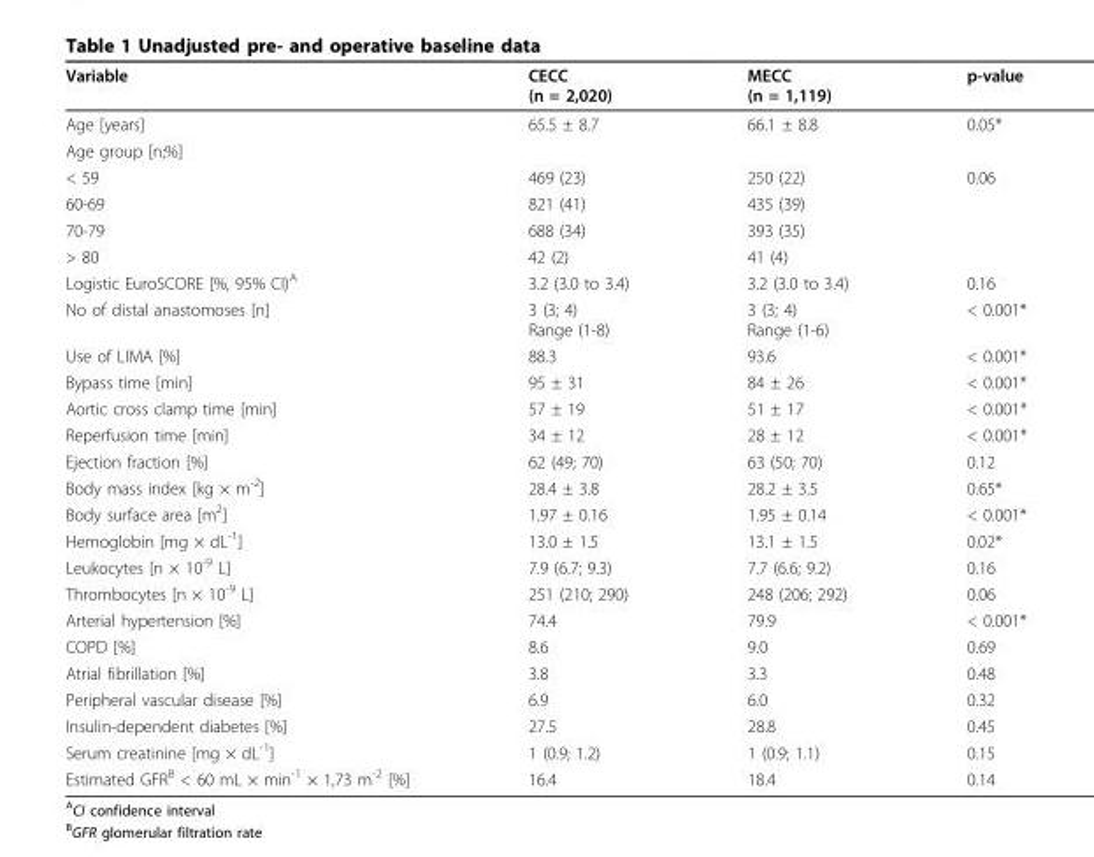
<table><thead><tr><td>Variable</td><td>CECC (n = 2,020)</td><td>MECC (n = 1,119)</td><td>p-value</td></tr></thead><tbody><tr><td>Age [years]</td><td>65.5 ± 8.7</td><td>66.1 ± 8.8</td><td>0.05*</td></tr><tr><td colspan="4">Age group [n;%]</td></tr><tr><td>&lt; 59</td><td>469 (23)</td><td>250 (22)</td><td>0.06</td></tr><tr><td>60-69</td><td>821 (41)</td><td>435 (39)</td><td></td></tr><tr><td>70-79</td><td>688 (34)</td><td>393 (35)</td><td></td></tr><tr><td>&gt; 80</td><td>42 (2)</td><td>41 (4)</td><td></td></tr><tr><td>Logistic EuroSCORE [%, 95% CI)<sup>A</sup></td><td>3.2 (3.0 to 3.4)</td><td>3.2 (3.0 to 3.4)</td><td>0.16</td></tr><tr><td>No of distal anastomoses [n]</td><td>3 (3; 4) Range (1-8)</td><td>3 (3; 4) Range (1-6)</td><td>&lt; 0.001*</td></tr><tr><td>Use of LIMA [%]</td><td>88.3</td><td>93.6</td><td>&lt; 0.001*</td></tr><tr><td>Bypass time [min]</td><td>95 ± 31</td><td>84 ± 26</td><td>&lt; 0.001*</td></tr><tr><td>Aortic cross clamp time [min]</td><td>57 ± 19</td><td>51 ± 17</td><td>&lt; 0.001*</td></tr><tr><td>Reperfusion time [min]</td><td>34 ± 12</td><td>28 ± 12</td><td>&lt; 0.001*</td></tr><tr><td>Ejection fraction [%]</td><td>62 (49; 70)</td><td>63 (50; 70)</td><td>0.12</td></tr><tr><td>Body mass index [kg × m<sup>-2</sup>]</td><td>28.4 ± 3.8</td><td>28.2 ± 3.5</td><td>0.65*</td></tr><tr><td>Body surface area [m<sup>2</sup>]</td><td>1.97 ± 0.16</td><td>1.95 ± 0.14</td><td>&lt; 0.001*</td></tr><tr><td>Hemoglobin [mg × dL<sup>-1</sup>]</td><td>13.0 ± 1.5</td><td>13.1 ± 1.5</td><td>0.02*</td></tr><tr><td>Leukocytes [n × 10<sup>-9</sup> L]</td><td>7.9 (6.7; 9.3)</td><td>7.7 (6.6; 9.2)</td><td>0.16</td></tr><tr><td>Thrombocytes [n × 10<sup>-9</sup> L]</td><td>251 (210; 290)</td><td>248 (206; 292)</td><td>0.06</td></tr><tr><td>Arterial hypertension [%]</td><td>74.4</td><td>79.9</td><td>&lt; 0.001*</td></tr><tr><td>COPD [%]</td><td>8.6</td><td>9.0</td><td>0.69</td></tr><tr><td>Atrial fibrillation [%]</td><td>3.8</td><td>3.3</td><td>0.48</td></tr><tr><td>Peripheral vascular disease [%]</td><td>6.9</td><td>6.0</td><td>0.32</td></tr><tr><td>Insulin-dependent diabetes [%]</td><td>27.5</td><td>28.8</td><td>0.45</td></tr><tr><td>Serum creatinine [mg × dL<sup>-1</sup>]</td><td>1 (0.9; 1.2)</td><td>1 (0.9; 1.1)</td><td>0.15</td></tr><tr><td>Estimated GFR<sup>B</sup> &lt; 60 mL × min<sup>-1</sup> × 1,73 m<sup>-2</sup> [%]</td><td>16.4</td><td>18.4</td><td>0.14</td></tr></tbody></table>